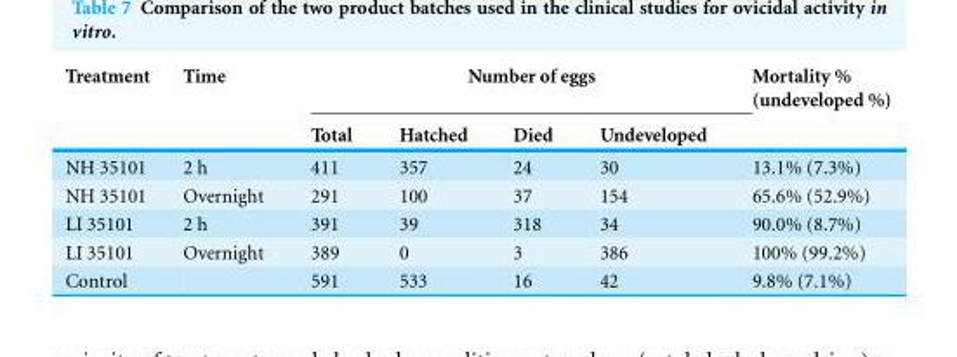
<table><thead><tr><td rowspan="2">Treatment</td><td rowspan="2">Time</td><td colspan="4">Number of eggs</td><td rowspan="2">Mortality % (undeveloped %)</td></tr><tr><td>Total</td><td>Hatched</td><td>Died</td><td>Undeveloped</td></tr></thead><tbody><tr><td>NH 35101</td><td>2 h</td><td>411</td><td>357</td><td>24</td><td>30</td><td>13.1% (7.3%)</td></tr><tr><td>NH 35101</td><td>Overnight</td><td>291</td><td>100</td><td>37</td><td>154</td><td>65.6% (52.9%)</td></tr><tr><td>LI 35101</td><td>2 h</td><td>391</td><td>39</td><td>318</td><td>34</td><td>90.0% (8.7%)</td></tr><tr><td>LI 35101</td><td>Overnight</td><td>389</td><td>0</td><td>3</td><td>386</td><td>100% (99.2%)</td></tr><tr><td>Control</td><td></td><td>591</td><td>533</td><td>16</td><td>42</td><td>9.8% (7.1%)</td></tr></tbody></table>